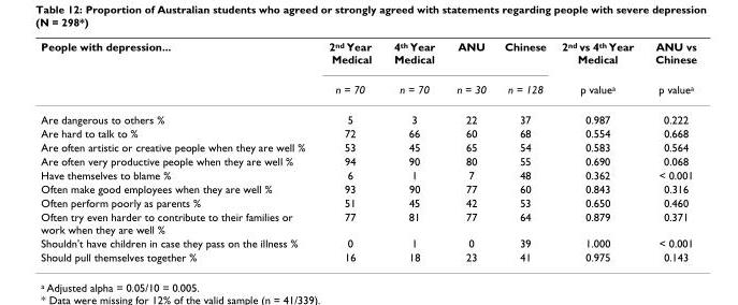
<table><thead><tr><td rowspan="2">People with depression...</td><td rowspan="2">2<sup>nd</sup> Year Medical n = 70</td><td rowspan="2">4<sup>th</sup> Year Medical n = 70</td><td rowspan="2">ANU n = 30</td><td rowspan="2">Chinese n = 128</td><td rowspan="2">2<sup>nd</sup> vs 4<sup>th</sup> Year Medical p value<sup>a</sup></td><td rowspan="2">ANU vs Chinese p value<sup>a</sup></td></tr><tr></tr></thead><tbody><tr><td>Are dangerous to others %</td><td>5</td><td>3</td><td>22</td><td>37</td><td>0.987</td><td>0.222</td></tr><tr><td>Are hard to talk to %</td><td>72</td><td>66</td><td>60</td><td>68</td><td>0.554</td><td>0.668</td></tr><tr><td>Are often artistic or creative people when they are well %</td><td>53</td><td>45</td><td>65</td><td>54</td><td>0.583</td><td>0.564</td></tr><tr><td>Are often very productive people when they are well %</td><td>94</td><td>90</td><td>80</td><td>55</td><td>0.690</td><td>0.068</td></tr><tr><td>Have themselves to blame %</td><td>6</td><td>1</td><td>7</td><td>48</td><td>0.362</td><td>&lt; 0.001</td></tr><tr><td>Often make good employees when they are well %</td><td>93</td><td>90</td><td>77</td><td>60</td><td>0.843</td><td>0.316</td></tr><tr><td>Often perform poorly as parents %</td><td>51</td><td>45</td><td>42</td><td>53</td><td>0.650</td><td>0.460</td></tr><tr><td>Often try even harder to contribute to their families or work when they are well %</td><td>77</td><td>81</td><td>77</td><td>64</td><td>0.879</td><td>0.371</td></tr><tr><td>Shouldn&#x27;t have children in case they pass on the illness %</td><td>0</td><td>1</td><td>0</td><td>39</td><td>1.000</td><td>&lt; 0.001</td></tr><tr><td>Should pull themselves together %</td><td>16</td><td>18</td><td>23</td><td>41</td><td>0.975</td><td>0.143</td></tr></tbody></table>